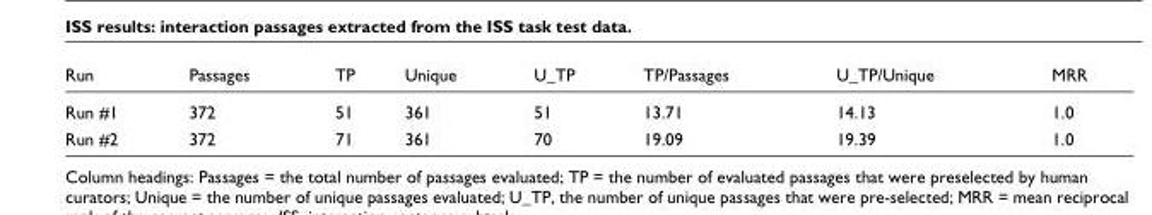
<table><thead><tr><td>Run</td><td>Passages</td><td>TP</td><td>Unique</td><td>U_TP</td><td>TP/Passages</td><td>U_TP/Unique</td><td>MRR</td></tr></thead><tbody><tr><td>Run #1</td><td>372</td><td>51</td><td>361</td><td>51</td><td>13.71</td><td>14.13</td><td>1.0</td></tr><tr><td>Run #2</td><td>372</td><td>71</td><td>361</td><td>70</td><td>19.09</td><td>19.39</td><td>1.0</td></tr></tbody></table>